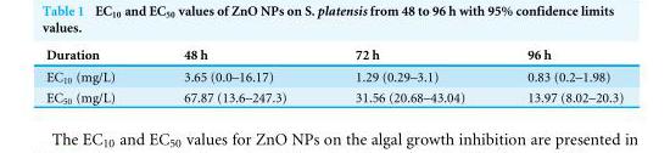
<table><thead><tr><td>Duration</td><td>48 h</td><td>72 h</td><td>96 h</td></tr></thead><tbody><tr><td>EC<sub>10</sub> (mg/L)</td><td>3.65 (0.0–16.17)</td><td>1.29 (0.29–3.1)</td><td>0.83 (0.2–1.98)</td></tr><tr><td>EC<sub>50</sub> (mg/L)</td><td>67.87 (13.6–247.3)</td><td>31.56 (20.68–43.04)</td><td>13.97 (8.02–20.3)</td></tr></tbody></table>